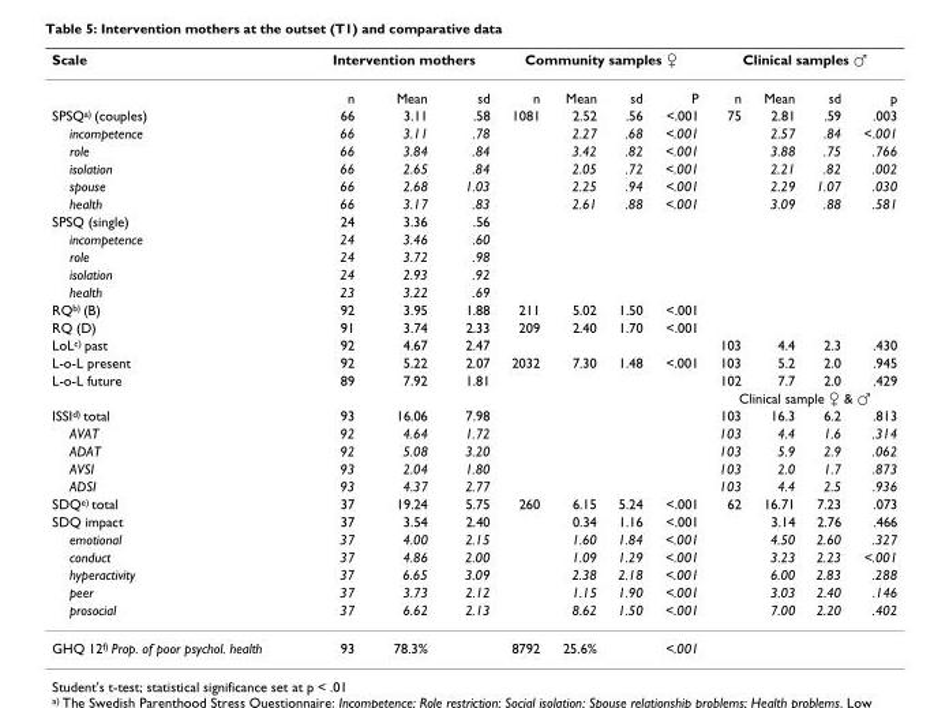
<table><thead><tr><td rowspan="2">Scale</td><td colspan="3">Intervention mothers</td><td colspan="4">Community samples ♀</td><td colspan="4">Clinical samples ♂</td></tr><tr><td>n</td><td>Mean</td><td>sd</td><td>n</td><td>Mean</td><td>sd</td><td>P</td><td>n</td><td>Mean</td><td>sd</td><td>p</td></tr></thead><tbody><tr><td>SPSQ<sup>a)</sup> (couples)</td><td>66</td><td>3.11</td><td>.58</td><td>1081</td><td>2.52</td><td>.56</td><td>&lt;.001</td><td>75</td><td>2.81</td><td>.59</td><td>.003</td></tr><tr><td>incompetence</td><td>66</td><td>3.11</td><td>.78</td><td></td><td>2.27</td><td>.68</td><td>&lt;.001</td><td></td><td>2.57</td><td>.84</td><td>&lt;.001</td></tr><tr><td>role</td><td>66</td><td>3.84</td><td>.84</td><td></td><td>3.42</td><td>.82</td><td>&lt;.001</td><td></td><td>3.88</td><td>.75</td><td>.766</td></tr><tr><td>isolation</td><td>66</td><td>2.65</td><td>.84</td><td></td><td>2.05</td><td>.72</td><td>&lt;.001</td><td></td><td>2.21</td><td>.82</td><td>.002</td></tr><tr><td>spouse</td><td>66</td><td>2.68</td><td>1.03</td><td></td><td>2.25</td><td>.94</td><td>&lt;.001</td><td></td><td>2.29</td><td>1.07</td><td>.030</td></tr><tr><td>health</td><td>66</td><td>3.17</td><td>.83</td><td></td><td>2.61</td><td>.88</td><td>&lt;.001</td><td></td><td>3.09</td><td>.88</td><td>.581</td></tr><tr><td>SPSQ (single)</td><td>24</td><td>3.36</td><td>.56</td><td></td><td></td><td></td><td></td><td></td><td></td><td></td><td></td></tr><tr><td>incompetence</td><td>24</td><td>3.46</td><td>.60</td><td></td><td></td><td></td><td></td><td></td><td></td><td></td><td></td></tr><tr><td>role</td><td>24</td><td>3.72</td><td>.98</td><td></td><td></td><td></td><td></td><td></td><td></td><td></td><td></td></tr><tr><td>isolation</td><td>24</td><td>2.93</td><td>.92</td><td></td><td></td><td></td><td></td><td></td><td></td><td></td><td></td></tr><tr><td>health</td><td>23</td><td>3.22</td><td>.69</td><td></td><td></td><td></td><td></td><td></td><td></td><td></td><td></td></tr><tr><td>RQ<sup>b)</sup> (B)</td><td>92</td><td>3.95</td><td>1.88</td><td>211</td><td>5.02</td><td>1.50</td><td>&lt;.001</td><td></td><td></td><td></td><td></td></tr><tr><td>RQ (D)</td><td>91</td><td>3.74</td><td>2.33</td><td>209</td><td>2.40</td><td>1.70</td><td>&lt;.001</td><td></td><td></td><td></td><td></td></tr><tr><td>LoL<sup>c)</sup> past</td><td>92</td><td>4.67</td><td>2.47</td><td></td><td></td><td></td><td></td><td>103</td><td>4.4</td><td>2.3</td><td>.430</td></tr><tr><td>L-o-L present</td><td>92</td><td>5.22</td><td>2.07</td><td>2032</td><td>7.30</td><td>1.48</td><td>&lt;.001</td><td>103</td><td>5.2</td><td>2.0</td><td>.945</td></tr><tr><td rowspan="2">L-o-L future</td><td>89</td><td>7.92</td><td>1.81</td><td></td><td></td><td></td><td></td><td>102</td><td>7.7</td><td>2.0</td><td>.429</td></tr><tr><td></td><td></td><td></td><td></td><td></td><td></td><td></td><td colspan="4">Clinical sample ♀ &amp; ♂</td></tr><tr><td>ISSI<sup>d)</sup> total</td><td>93</td><td>16.06</td><td>7.98</td><td></td><td></td><td></td><td></td><td>103</td><td>16.3</td><td>6.2</td><td>.813</td></tr><tr><td>AVAT</td><td>92</td><td>4.64</td><td>1.72</td><td></td><td></td><td></td><td></td><td>103</td><td>4.4</td><td>1.6</td><td>.314</td></tr><tr><td>ADAT</td><td>92</td><td>5.08</td><td>3.20</td><td></td><td></td><td></td><td></td><td>103</td><td>5.9</td><td>2.9</td><td>.062</td></tr><tr><td>AVSI</td><td>93</td><td>2.04</td><td>1.80</td><td></td><td></td><td></td><td></td><td>103</td><td>2.0</td><td>1.7</td><td>.873</td></tr><tr><td>ADSI</td><td>93</td><td>4.37</td><td>2.77</td><td></td><td></td><td></td><td></td><td>103</td><td>4.4</td><td>2.5</td><td>.936</td></tr><tr><td>SDQ<sup>e)</sup> total</td><td>37</td><td>19.24</td><td>5.75</td><td>260</td><td>6.15</td><td>5.24</td><td>&lt;.001</td><td>62</td><td>16.71</td><td>7.23</td><td>.073</td></tr><tr><td>SDQ impact</td><td>37</td><td>3.54</td><td>2.40</td><td></td><td>0.34</td><td>1.16</td><td>&lt;.001</td><td></td><td>3.14</td><td>2.76</td><td>.466</td></tr><tr><td>emotional</td><td>37</td><td>4.00</td><td>2.15</td><td></td><td>1.60</td><td>1.84</td><td>&lt;.001</td><td></td><td>4.50</td><td>2.60</td><td>.327</td></tr><tr><td>conduct</td><td>37</td><td>4.86</td><td>2.00</td><td></td><td>1.09</td><td>1.29</td><td>&lt;.001</td><td></td><td>3.23</td><td>2.23</td><td>&lt;.001</td></tr><tr><td>hyperactivity</td><td>37</td><td>6.65</td><td>3.09</td><td></td><td>2.38</td><td>2.18</td><td>&lt;.001</td><td></td><td>6.00</td><td>2.83</td><td>.288</td></tr><tr><td>peer</td><td>37</td><td>3.73</td><td>2.12</td><td></td><td>1.15</td><td>1.90</td><td>&lt;.001</td><td></td><td>3.03</td><td>2.40</td><td>.146</td></tr><tr><td>prosocial</td><td>37</td><td>6.62</td><td>2.13</td><td></td><td>8.62</td><td>1.50</td><td>&lt;.001</td><td></td><td>7.00</td><td>2.20</td><td>.402</td></tr><tr><td>GHQ 12<sup>f)</sup> Prop. of poor psychol. health</td><td>93</td><td>78.3%</td><td></td><td>8792</td><td>25.6%</td><td></td><td>&lt;.001</td><td></td><td></td><td></td><td></td></tr></tbody></table>